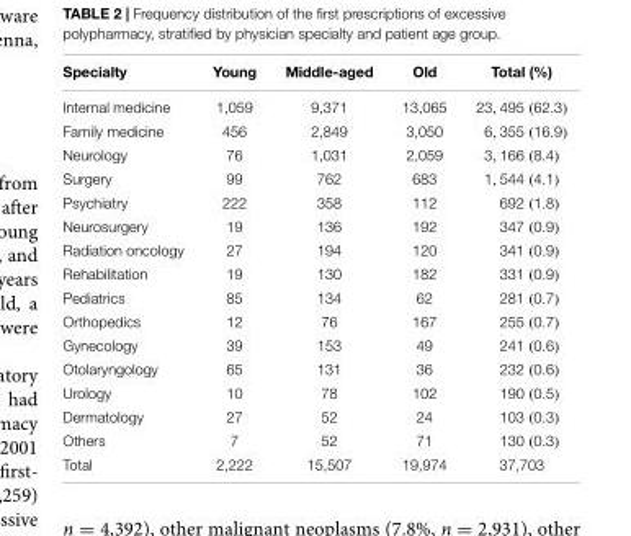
<table><thead><tr><td>Specialty</td><td>Young</td><td>Middle-aged</td><td>Old</td><td>Total (%)</td></tr></thead><tbody><tr><td>Internal medicine</td><td>1,059</td><td>9,371</td><td>13,065</td><td>23, 495 (62.3)</td></tr><tr><td>Family medicine</td><td>456</td><td>2,849</td><td>3,050</td><td>6, 355 (16.9)</td></tr><tr><td>Neurology</td><td>76</td><td>1,031</td><td>2,059</td><td>3, 166 (8.4)</td></tr><tr><td>Surgery</td><td>99</td><td>762</td><td>683</td><td>1, 544 (4.1)</td></tr><tr><td>Psychiatry</td><td>222</td><td>358</td><td>112</td><td>692 (1.8)</td></tr><tr><td>Neurosurgery</td><td>19</td><td>136</td><td>192</td><td>347 (0.9)</td></tr><tr><td>Radiation oncology</td><td>27</td><td>194</td><td>120</td><td>341 (0.9)</td></tr><tr><td>Rehabilitation</td><td>19</td><td>130</td><td>182</td><td>331 (0.9)</td></tr><tr><td>Pediatrics</td><td>85</td><td>134</td><td>62</td><td>281 (0.7)</td></tr><tr><td>Orthopedics</td><td>12</td><td>76</td><td>167</td><td>255 (0.7)</td></tr><tr><td>Gynecology</td><td>39</td><td>153</td><td>49</td><td>241 (0.6)</td></tr><tr><td>Otolaryngology</td><td>65</td><td>131</td><td>36</td><td>232 (0.6)</td></tr><tr><td>Urology</td><td>10</td><td>78</td><td>102</td><td>190 (0.5)</td></tr><tr><td>Dermatology</td><td>27</td><td>52</td><td>24</td><td>103 (0.3)</td></tr><tr><td>Others</td><td>7</td><td>52</td><td>71</td><td>130 (0.3)</td></tr><tr><td>Total</td><td>2,222</td><td>15,507</td><td>19,974</td><td>37,703</td></tr></tbody></table>